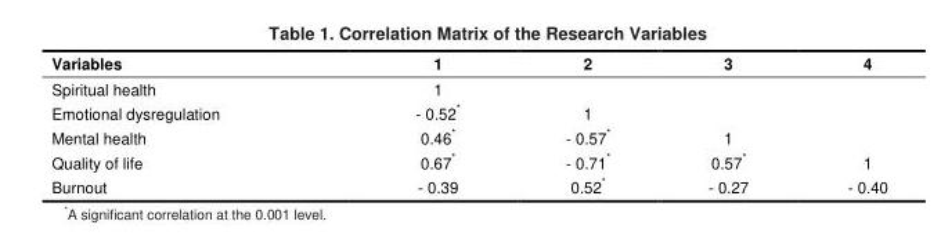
<table><thead><tr><td>Variables</td><td>1</td><td>2</td><td>3</td><td>4</td></tr></thead><tbody><tr><td>Spiritual health</td><td>1</td><td></td><td></td><td></td></tr><tr><td>Emotional dysregulation</td><td>- 0.52*</td><td>1</td><td></td><td></td></tr><tr><td>Mental health</td><td>0.46*</td><td>- 0.57*</td><td>1</td><td></td></tr><tr><td>Quality of life</td><td>0.67*</td><td>- 0.71*</td><td>0.57*</td><td>1</td></tr><tr><td>Burnout</td><td>- 0.39</td><td>0.52*</td><td>- 0.27</td><td>- 0.40</td></tr></tbody></table>